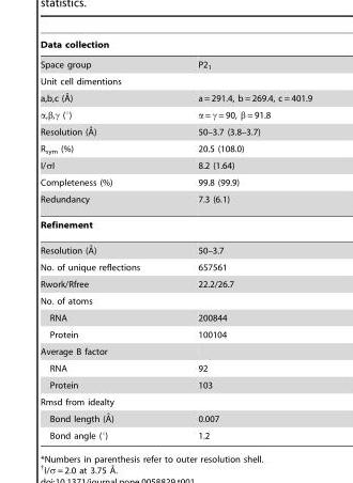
<table><thead><tr><td>Data collection</td><td></td></tr></thead><tbody><tr><td>Space group</td><td>P2<sub>1</sub></td></tr><tr><td colspan="2">Unit cell dimentions</td></tr><tr><td>a,b,c (A˚)</td><td>a = 291.4, b = 269.4, c = 401.9</td></tr><tr><td>α,β,γ (°)</td><td>α = γ = 90, β = 91.8</td></tr><tr><td>Resolution (A˚)</td><td>50–3.7 (3.8–3.7)</td></tr><tr><td>R<sub>sym</sub> (%)</td><td>20.5 (108.0)</td></tr><tr><td>I/σI</td><td>8.2 (1.64)</td></tr><tr><td>Completeness (%)</td><td>99.8 (99.9)</td></tr><tr><td>Redundancy</td><td>7.3 (6.1)</td></tr><tr><td colspan="2">Refinement</td></tr><tr><td>Resolution (A˚)</td><td>50–3.7</td></tr><tr><td>No. of unique reflections</td><td>657561</td></tr><tr><td>Rwork/Rfree</td><td>22.2/26.7</td></tr><tr><td colspan="2">No. of atoms</td></tr><tr><td>RNA</td><td>200844</td></tr><tr><td>Protein</td><td>100104</td></tr><tr><td colspan="2">Average B factor</td></tr><tr><td>RNA</td><td>92</td></tr><tr><td>Protein</td><td>103</td></tr><tr><td colspan="2">Rmsd from idealty</td></tr><tr><td>Bond length (A˚)</td><td>0.007</td></tr><tr><td>Bond angle (°)</td><td>1.2</td></tr></tbody></table>